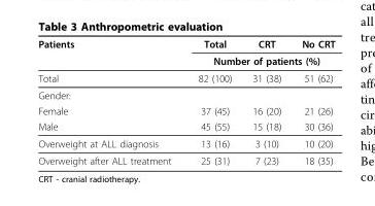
<table><thead><tr><td rowspan="2">Patients</td><td>Total</td><td>CRT</td><td>No CRT</td></tr><tr><td colspan="3">Number of patients (%)</td></tr></thead><tbody><tr><td>Total</td><td>82 (100)</td><td>31 (38)</td><td>51 (62)</td></tr><tr><td colspan="4">Gender:</td></tr><tr><td>Female</td><td>37 (45)</td><td>16 (20)</td><td>21 (26)</td></tr><tr><td>Male</td><td>45 (55)</td><td>15 (18)</td><td>30 (36)</td></tr><tr><td>Overweight at ALL diagnosis</td><td>13 (16)</td><td>3 (10)</td><td>10 (20)</td></tr><tr><td>Overweight after ALL treatment</td><td>25 (31)</td><td>7 (23)</td><td>18 (35)</td></tr></tbody></table>